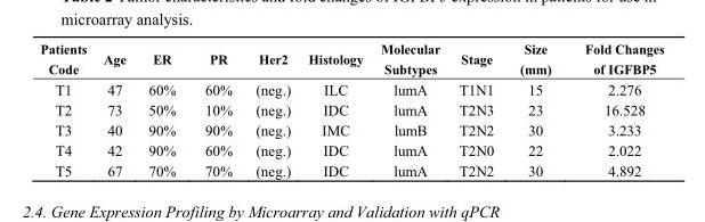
<table><thead><tr><td>Patients Code</td><td>Age</td><td>ER</td><td>PR</td><td>Her2</td><td>Histology</td><td>Molecular Subtypes</td><td>Stage</td><td>Size (mm)</td><td>Fold Changes of IGFBP5</td></tr></thead><tbody><tr><td>T1</td><td>47</td><td>60%</td><td>60%</td><td>(neg.)</td><td>ILC</td><td>lumA</td><td>T1N1</td><td>15</td><td>2.276</td></tr><tr><td>T2</td><td>73</td><td>50%</td><td>10%</td><td>(neg.)</td><td>IDC</td><td>lumA</td><td>T2N3</td><td>23</td><td>16.528</td></tr><tr><td>T3</td><td>40</td><td>90%</td><td>90%</td><td>(neg.)</td><td>IMC</td><td>lumB</td><td>T2N2</td><td>30</td><td>3.233</td></tr><tr><td>T4</td><td>42</td><td>90%</td><td>60%</td><td>(neg.)</td><td>IDC</td><td>lumA</td><td>T2N0</td><td>22</td><td>2.022</td></tr><tr><td>T5</td><td>67</td><td>70%</td><td>70%</td><td>(neg.)</td><td>IDC</td><td>lumA</td><td>T2N2</td><td>30</td><td>4.892</td></tr></tbody></table>